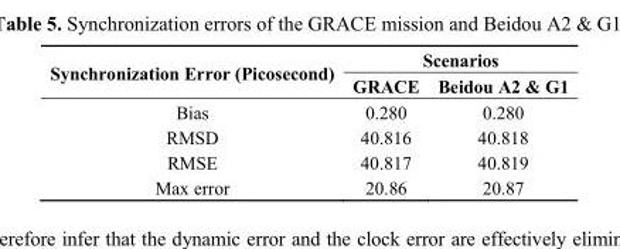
<table><thead><tr><td rowspan="2">Synchronization Error (Picosecond)</td><td colspan="2">Scenarios</td></tr><tr><td>GRACE</td><td>Beidou A2 &amp; G1</td></tr></thead><tbody><tr><td>Bias</td><td>0.280</td><td>0.280</td></tr><tr><td>RMSD</td><td>40.816</td><td>40.818</td></tr><tr><td>RMSE</td><td>40.817</td><td>40.819</td></tr><tr><td>Max error</td><td>20.86</td><td>20.87</td></tr></tbody></table>